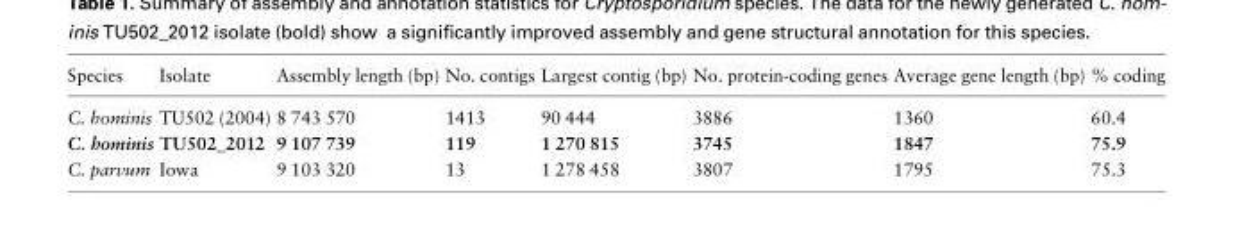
<table><thead><tr><td>Species</td><td>Isolate</td><td>Assembly length (bp)</td><td>No. contigs</td><td>Largest contig (bp)</td><td>No. protein-coding genes</td><td>Average gene length (bp)</td><td>% coding</td></tr></thead><tbody><tr><td>C. hominis</td><td>TU502 (2004)</td><td>8 743 570</td><td>1413</td><td>90 444</td><td>3886</td><td>1360</td><td>60.4</td></tr><tr><td>C. hominis</td><td>TU502_2012</td><td>9 107 739</td><td>119</td><td>1 270 815</td><td>3745</td><td>1847</td><td>75.9</td></tr><tr><td>C. parvum</td><td>Iowa</td><td>9 103 320</td><td>13</td><td>1 278 458</td><td>3807</td><td>1795</td><td>75.3</td></tr></tbody></table>